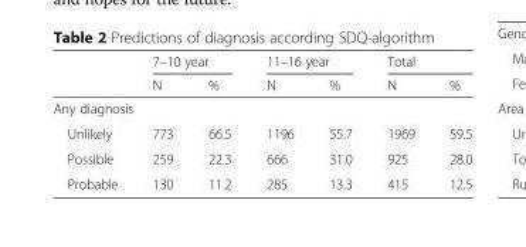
<table><thead><tr><td rowspan="2"></td><td colspan="2">7–10 year</td><td colspan="2">11–16 year</td><td colspan="2">Total</td></tr><tr><td>N</td><td>%</td><td>N</td><td>%</td><td>N</td><td>%</td></tr></thead><tbody><tr><td colspan="7">Any diagnosis</td></tr><tr><td>Unlikely</td><td>773</td><td>66.5</td><td>1196</td><td>55.7</td><td>1969</td><td>59.5</td></tr><tr><td>Possible</td><td>259</td><td>22.3</td><td>666</td><td>31.0</td><td>925</td><td>28.0</td></tr><tr><td>Probable</td><td>130</td><td>11.2</td><td>285</td><td>13.3</td><td>415</td><td>12.5</td></tr></tbody></table>